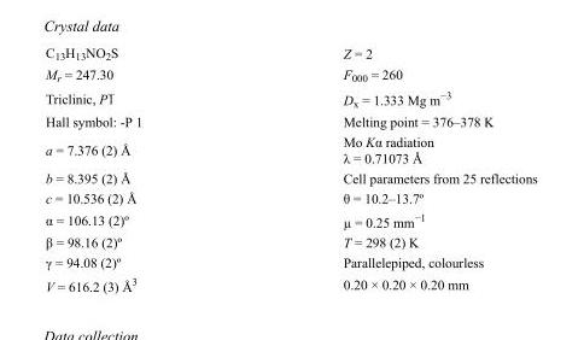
<table><tbody><tr><td>C<sub>13</sub>H<sub>13</sub>NO<sub>2</sub>S</td><td>Z = 2</td></tr><tr><td>M<sub>r</sub> = 247.30</td><td>F<sub>000</sub> = 260</td></tr><tr><td>Triclinic, P1</td><td>D<sub>x</sub> = 1.333 Mg m<sup>−3</sup></td></tr><tr><td>Hall symbol: -P 1</td><td>Melting point = 376–378 K</td></tr><tr><td>a = 7.376 (2) Å</td><td>Mo Kα radiation λ = 0.71073 Å</td></tr><tr><td>b = 8.395 (2) Å</td><td>Cell parameters from 25 reflections</td></tr><tr><td>c = 10.536 (2) Å</td><td>θ = 10.2–13.7º</td></tr><tr><td>α = 106.13 (2)º</td><td>µ = 0.25 mm<sup>−1</sup></td></tr><tr><td>β = 98.16 (2)º</td><td>T = 298 (2) K</td></tr><tr><td>γ = 94.08 (2)º</td><td>Parallelepiped, colourless</td></tr><tr><td>V = 616.2 (3) Å<sup>3</sup></td><td>0.20 × 0.20 × 0.20 mm</td></tr></tbody></table>